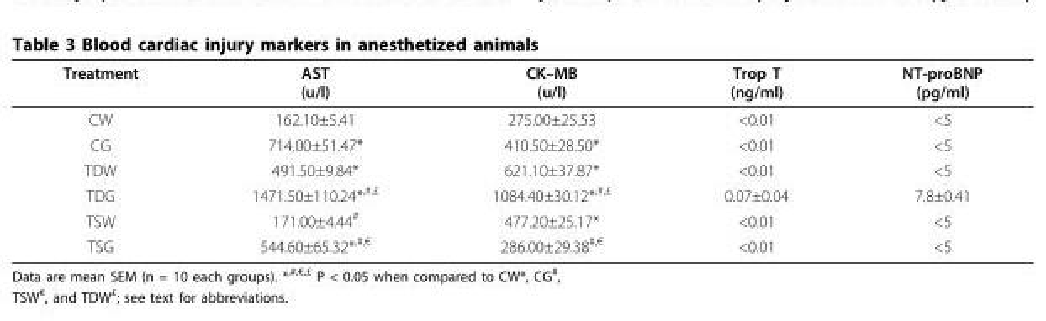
<table><thead><tr><td>Treatment</td><td>AST (u/l)</td><td>CK–MB (u/l)</td><td>Trop T (ng/ml)</td><td>NT-proBNP (pg/ml)</td></tr></thead><tbody><tr><td>CW</td><td>162.10±5.41</td><td>275.00±25.53</td><td>&lt;0.01</td><td>&lt;5</td></tr><tr><td>CG</td><td>714.00±51.47*</td><td>410.50±28.50*</td><td>&lt;0.01</td><td>&lt;5</td></tr><tr><td>TDW</td><td>491.50±9.84*</td><td>621.10±37.87*</td><td>&lt;0.01</td><td>&lt;5</td></tr><tr><td>TDG</td><td>1471.50±110.24*<sup>,#,£</sup></td><td>1084.40±30.12*<sup>,#,£</sup></td><td>0.07±0.04</td><td>7.8±0.41</td></tr><tr><td>TSW</td><td>171.00±4.44<sup>#</sup></td><td>477.20±25.17*</td><td>&lt;0.01</td><td>&lt;5</td></tr><tr><td>TSG</td><td>544.60±65.32*<sup>,#,€</sup></td><td>286.00±29.38<sup>#,€</sup></td><td>&lt;0.01</td><td>&lt;5</td></tr></tbody></table>